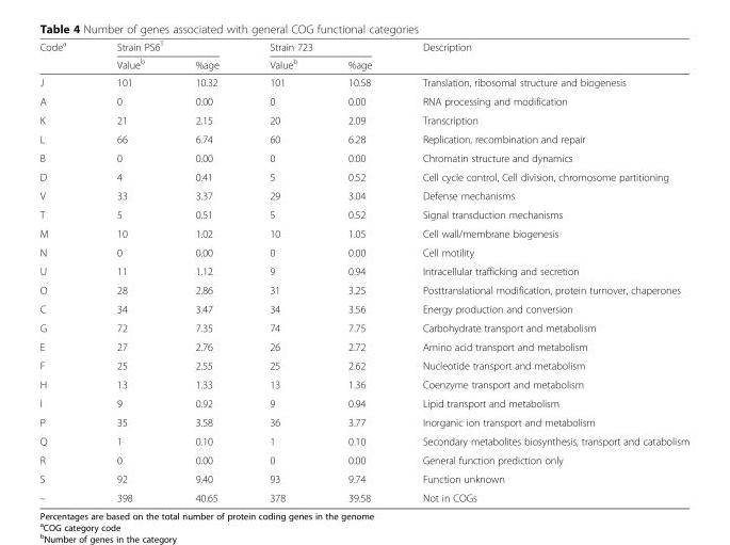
<table><thead><tr><td rowspan="2">Code<sup>a</sup></td><td colspan="2">Strain PS6<sup>T</sup></td><td colspan="2">Strain 723</td><td rowspan="2">Description</td></tr><tr><td>Value<sup>b</sup></td><td>%age</td><td>Value<sup>b</sup></td><td>%age</td></tr></thead><tbody><tr><td>J</td><td>101</td><td>10.32</td><td>101</td><td>10.58</td><td>Translation, ribosomal structure and biogenesis</td></tr><tr><td>A</td><td>0</td><td>0.00</td><td>0</td><td>0.00</td><td>RNA processing and modification</td></tr><tr><td>K</td><td>21</td><td>2.15</td><td>20</td><td>2.09</td><td>Transcription</td></tr><tr><td>L</td><td>66</td><td>6.74</td><td>60</td><td>6.28</td><td>Replication, recombination and repair</td></tr><tr><td>B</td><td>0</td><td>0.00</td><td>0</td><td>0.00</td><td>Chromatin structure and dynamics</td></tr><tr><td>D</td><td>4</td><td>0.41</td><td>5</td><td>0.52</td><td>Cell cycle control, Cell division, chromosome partitioning</td></tr><tr><td>V</td><td>33</td><td>3.37</td><td>29</td><td>3.04</td><td>Defense mechanisms</td></tr><tr><td>T</td><td>5</td><td>0.51</td><td>5</td><td>0.52</td><td>Signal transduction mechanisms</td></tr><tr><td>M</td><td>10</td><td>1.02</td><td>10</td><td>1.05</td><td>Cell wall/membrane biogenesis</td></tr><tr><td>N</td><td>0</td><td>0.00</td><td>0</td><td>0.00</td><td>Cell motility</td></tr><tr><td>U</td><td>11</td><td>1.12</td><td>9</td><td>0.94</td><td>Intracellular trafficking and secretion</td></tr><tr><td>O</td><td>28</td><td>2.86</td><td>31</td><td>3.25</td><td>Posttranslational modification, protein turnover, chaperones</td></tr><tr><td>C</td><td>34</td><td>3.47</td><td>34</td><td>3.56</td><td>Energy production and conversion</td></tr><tr><td>G</td><td>72</td><td>7.35</td><td>74</td><td>7.75</td><td>Carbohydrate transport and metabolism</td></tr><tr><td>E</td><td>27</td><td>2.76</td><td>26</td><td>2.72</td><td>Amino acid transport and metabolism</td></tr><tr><td>F</td><td>25</td><td>2.55</td><td>25</td><td>2.62</td><td>Nucleotide transport and metabolism</td></tr><tr><td>H</td><td>13</td><td>1.33</td><td>13</td><td>1.36</td><td>Coenzyme transport and metabolism</td></tr><tr><td>I</td><td>9</td><td>0.92</td><td>9</td><td>0.94</td><td>Lipid transport and metabolism</td></tr><tr><td>P</td><td>35</td><td>3.58</td><td>36</td><td>3.77</td><td>Inorganic ion transport and metabolism</td></tr><tr><td>Q</td><td>1</td><td>0.10</td><td>1</td><td>0.10</td><td>Secondary metabolites biosynthesis, transport and catabolism</td></tr><tr><td>R</td><td>0</td><td>0.00</td><td>0</td><td>0.00</td><td>General function prediction only</td></tr><tr><td>S</td><td>92</td><td>9.40</td><td>93</td><td>9.74</td><td>Function unknown</td></tr><tr><td>–</td><td>398</td><td>40.65</td><td>378</td><td>39.58</td><td>Not in COGs</td></tr></tbody></table>